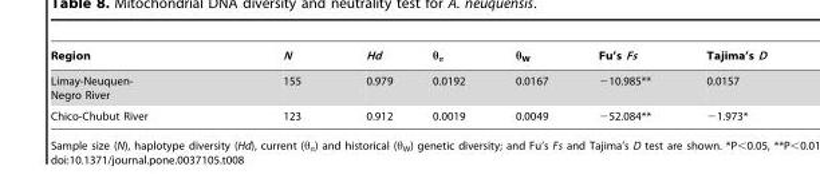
<table><thead><tr><td>Region</td><td>N</td><td>Hd</td><td>θ<sub>π</sub></td><td>θ<sub>W</sub></td><td>Fu’s Fs</td><td>Tajima’s D</td></tr></thead><tbody><tr><td>Limay-Neuquen- Negro River</td><td>155</td><td>0.979</td><td>0.0192</td><td>0.0167</td><td>−10.985**</td><td>0.0157</td></tr><tr><td>Chico-Chubut River</td><td>123</td><td>0.912</td><td>0.0019</td><td>0.0049</td><td>−52.084**</td><td>−1.973*</td></tr></tbody></table>